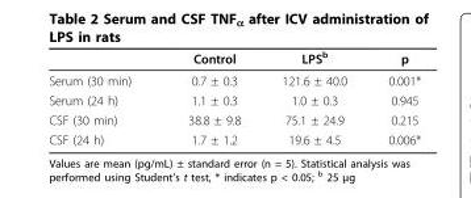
<table><thead><tr><td></td><td>Control</td><td>LPS<sup>b</sup></td><td>p</td></tr></thead><tbody><tr><td>Serum (30 min)</td><td>0.7 ± 0.3</td><td>121.6 ± 40.0</td><td>0.001*</td></tr><tr><td>Serum (24 h)</td><td>1.1 ± 0.3</td><td>1.0 ± 0.3</td><td>0.945</td></tr><tr><td>CSF (30 min)</td><td>38.8 ± 9.8</td><td>75.1 ± 24.9</td><td>0.215</td></tr><tr><td>CSF (24 h)</td><td>1.7 ± 1.2</td><td>19.6 ± 4.5</td><td>0.006*</td></tr></tbody></table>